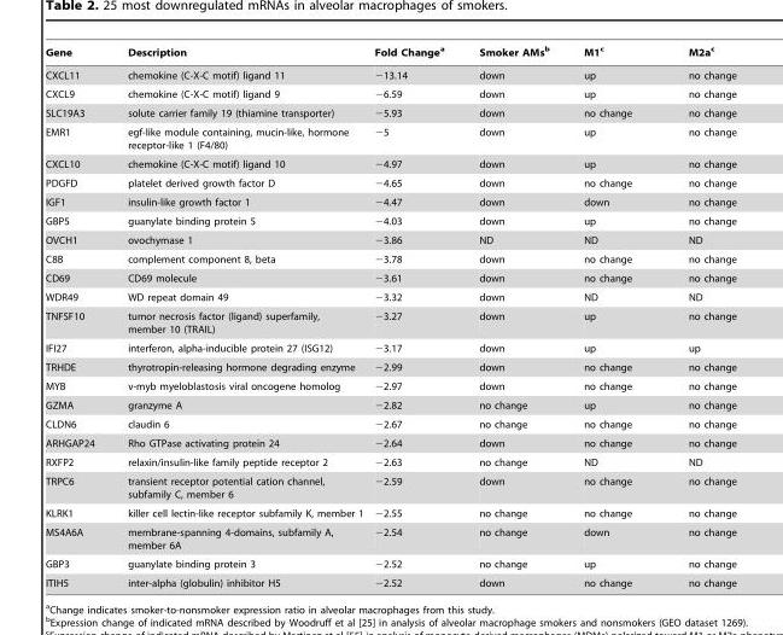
<table><thead><tr><td>Gene</td><td>Description</td><td>Fold Change<sup>a</sup></td><td>Smoker AMs<sup>b</sup></td><td>M1<sup>c</sup></td><td>M2a<sup>c</sup></td></tr></thead><tbody><tr><td>CXCL11</td><td>chemokine (C-X-C motif) ligand 11</td><td>−13.14</td><td>down</td><td>up</td><td>no change</td></tr><tr><td>CXCL9</td><td>chemokine (C-X-C motif) ligand 9</td><td>−6.59</td><td>down</td><td>up</td><td>no change</td></tr><tr><td>SLC19A3</td><td>solute carrier family 19 (thiamine transporter)</td><td>−5.93</td><td>down</td><td>no change</td><td>no change</td></tr><tr><td>EMR1</td><td>egf-like module containing, mucin-like, hormone receptor-like 1 (F4/80)</td><td>−5</td><td>down</td><td>up</td><td>no change</td></tr><tr><td>CXCL10</td><td>chemokine (C-X-C motif) ligand 10</td><td>−4.97</td><td>down</td><td>up</td><td>no change</td></tr><tr><td>PDGFD</td><td>platelet derived growth factor D</td><td>−4.65</td><td>down</td><td>no change</td><td>no change</td></tr><tr><td>IGF1</td><td>insulin-like growth factor 1</td><td>−4.47</td><td>down</td><td>down</td><td>no change</td></tr><tr><td>GBP5</td><td>guanylate binding protein 5</td><td>−4.03</td><td>down</td><td>up</td><td>no change</td></tr><tr><td>OVCH1</td><td>ovochymase 1</td><td>−3.86</td><td>ND</td><td>ND</td><td>ND</td></tr><tr><td>C8B</td><td>complement component 8, beta</td><td>−3.78</td><td>down</td><td>no change</td><td>no change</td></tr><tr><td>CD69</td><td>CD69 molecule</td><td>−3.61</td><td>down</td><td>no change</td><td>no change</td></tr><tr><td>WDR49</td><td>WD repeat domain 49</td><td>−3.32</td><td>down</td><td>ND</td><td>ND</td></tr><tr><td>TNFSF10</td><td>tumor necrosis factor (ligand) superfamily, member 10 (TRAIL)</td><td>−3.27</td><td>down</td><td>up</td><td>no change</td></tr><tr><td>IFI27</td><td>interferon, alpha-inducible protein 27 (ISG12)</td><td>−3.17</td><td>down</td><td>up</td><td>up</td></tr><tr><td>TRHDE</td><td>thyrotropin-releasing hormone degrading enzyme</td><td>−2.99</td><td>down</td><td>no change</td><td>no change</td></tr><tr><td>MYB</td><td>v-myb myeloblastosis viral oncogene homolog</td><td>−2.97</td><td>down</td><td>no change</td><td>no change</td></tr><tr><td>GZMA</td><td>granzyme A</td><td>−2.82</td><td>no change</td><td>up</td><td>no change</td></tr><tr><td>CLDN6</td><td>claudin 6</td><td>−2.67</td><td>no change</td><td>no change</td><td>no change</td></tr><tr><td>ARHGAP24</td><td>Rho GTPase activating protein 24</td><td>−2.64</td><td>down</td><td>no change</td><td>no change</td></tr><tr><td>RXFP2</td><td>relaxin/insulin-like family peptide receptor 2</td><td>−2.63</td><td>no change</td><td>ND</td><td>ND</td></tr><tr><td>TRPC6</td><td>transient receptor potential cation channel, subfamily C, member 6</td><td>−2.59</td><td>down</td><td>no change</td><td>no change</td></tr><tr><td>KLRK1</td><td>killer cell lectin-like receptor subfamily K, member 1</td><td>−2.55</td><td>no change</td><td>no change</td><td>no change</td></tr><tr><td>MS4A6A</td><td>membrane-spanning 4-domains, subfamily A, member 6A</td><td>−2.54</td><td>no change</td><td>down</td><td>no change</td></tr><tr><td>GBP3</td><td>guanylate binding protein 3</td><td>−2.52</td><td>no change</td><td>up</td><td>no change</td></tr><tr><td>ITIH5</td><td>inter-alpha (globulin) inhibitor H5</td><td>−2.52</td><td>down</td><td>no change</td><td>no change</td></tr></tbody></table>